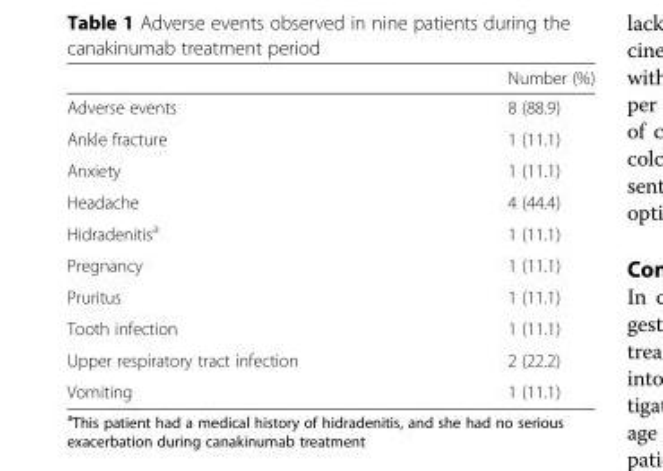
<table><thead><tr><td></td><td>Number (%)</td></tr></thead><tbody><tr><td>Adverse events</td><td>8 (88.9)</td></tr><tr><td>Ankle fracture</td><td>1 (11.1)</td></tr><tr><td>Anxiety</td><td>1 (11.1)</td></tr><tr><td>Headache</td><td>4 (44.4)</td></tr><tr><td>Hidradenitis<sup>a</sup></td><td>1 (11.1)</td></tr><tr><td>Pregnancy</td><td>1 (11.1)</td></tr><tr><td>Pruritus</td><td>1 (11.1)</td></tr><tr><td>Tooth infection</td><td>1 (11.1)</td></tr><tr><td>Upper respiratory tract infection</td><td>2 (22.2)</td></tr><tr><td>Vomiting</td><td>1 (11.1)</td></tr></tbody></table>